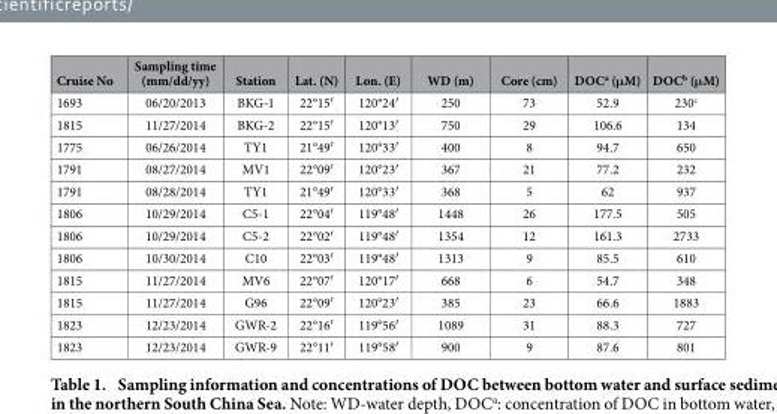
<table><thead><tr><td>Cruise No</td><td>Sampling time (mm/dd/yy)</td><td>Station</td><td>Lat. (N)</td><td>Lon. (E)</td><td>WD (m)</td><td>Core (cm)</td><td>DOC<sup>a</sup> (μM)</td><td>DOC<sup>b</sup> (μM)</td></tr></thead><tbody><tr><td>1693</td><td>06/20/2013</td><td>BKG-1</td><td>22°15′</td><td>120°24′</td><td>250</td><td>73</td><td>52.9</td><td>230<sup>c</sup></td></tr><tr><td>1815</td><td>11/27/2014</td><td>BKG-2</td><td>22°15′</td><td>120°13′</td><td>750</td><td>29</td><td>106.6</td><td>134</td></tr><tr><td>1775</td><td>06/26/2014</td><td>TY1</td><td>21°49′</td><td>120°33′</td><td>400</td><td>8</td><td>94.7</td><td>650</td></tr><tr><td>1791</td><td>08/27/2014</td><td>MV1</td><td>22°09′</td><td>120°23′</td><td>367</td><td>21</td><td>77.2</td><td>232</td></tr><tr><td>1791</td><td>08/28/2014</td><td>TY1</td><td>21°49′</td><td>120°33′</td><td>368</td><td>5</td><td>62</td><td>937</td></tr><tr><td>1806</td><td>10/29/2014</td><td>C5-1</td><td>22°04′</td><td>119°48′</td><td>1448</td><td>26</td><td>177.5</td><td>505</td></tr><tr><td>1806</td><td>10/29/2014</td><td>C5-2</td><td>22°02′</td><td>119°48′</td><td>1354</td><td>12</td><td>161.3</td><td>2733</td></tr><tr><td>1806</td><td>10/30/2014</td><td>C10</td><td>22°03′</td><td>119°48′</td><td>1313</td><td>9</td><td>85.5</td><td>610</td></tr><tr><td>1815</td><td>11/27/2014</td><td>MV6</td><td>22°07′</td><td>120°17′</td><td>668</td><td>6</td><td>54.7</td><td>348</td></tr><tr><td>1815</td><td>11/27/2014</td><td>G96</td><td>22°09′</td><td>120°23′</td><td>385</td><td>23</td><td>66.6</td><td>1883</td></tr><tr><td>1823</td><td>12/23/2014</td><td>GWR-2</td><td>22°16′</td><td>119°56′</td><td>1089</td><td>31</td><td>88.3</td><td>727</td></tr><tr><td>1823</td><td>12/23/2014</td><td>GWR-9</td><td>22°11′</td><td>119°58′</td><td>900</td><td>9</td><td>87.6</td><td>801</td></tr></tbody></table>